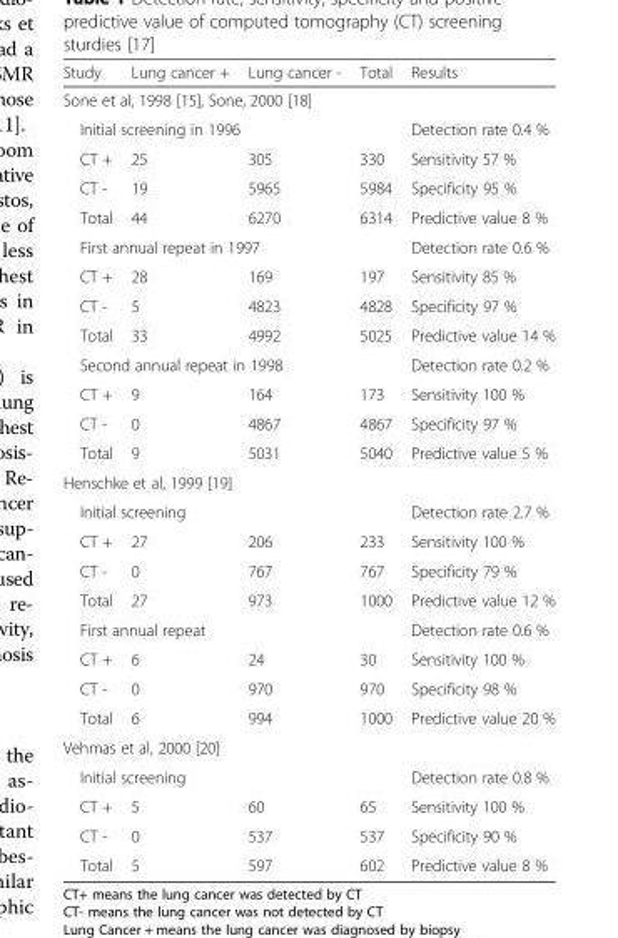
<table><thead><tr><td>Study</td><td>Lung cancer +</td><td>Lung cancer -</td><td>Total</td><td>Results</td></tr></thead><tbody><tr><td colspan="5">Sone et al, 1998 [15], Sone, 2000 [18]</td></tr><tr><td colspan="4">Initial screening in 1996</td><td>Detection rate 0.4 %</td></tr><tr><td>CT +</td><td>25</td><td>305</td><td>330</td><td>Sensitivity 57 %</td></tr><tr><td>CT -</td><td>19</td><td>5965</td><td>5984</td><td>Specificity 95 %</td></tr><tr><td>Total</td><td>44</td><td>6270</td><td>6314</td><td>Predictive value 8 %</td></tr><tr><td colspan="4">First annual repeat in 1997</td><td>Detection rate 0.6 %</td></tr><tr><td>CT +</td><td>28</td><td>169</td><td>197</td><td>Sensitivity 85 %</td></tr><tr><td>CT -</td><td>5</td><td>4823</td><td>4828</td><td>Specificity 97 %</td></tr><tr><td>Total</td><td>33</td><td>4992</td><td>5025</td><td>Predictive value 14 %</td></tr><tr><td colspan="4">Second annual repeat in 1998</td><td>Detection rate 0.2 %</td></tr><tr><td>CT +</td><td>9</td><td>164</td><td>173</td><td>Sensitivity 100 %</td></tr><tr><td>CT -</td><td>0</td><td>4867</td><td>4867</td><td>Specificity 97 %</td></tr><tr><td>Total</td><td>9</td><td>5031</td><td>5040</td><td>Predictive value 5 %</td></tr><tr><td colspan="5">Henschke et al, 1999 [19]</td></tr><tr><td colspan="4">Initial screening</td><td>Detection rate 2.7 %</td></tr><tr><td>CT +</td><td>27</td><td>206</td><td>233</td><td>Sensitivity 100 %</td></tr><tr><td>CT -</td><td>0</td><td>767</td><td>767</td><td>Specificity 79 %</td></tr><tr><td>Total</td><td>27</td><td>973</td><td>1000</td><td>Predictive value 12 %</td></tr><tr><td colspan="4">First annual repeat</td><td>Detection rate 0.6 %</td></tr><tr><td>CT +</td><td>6</td><td>24</td><td>30</td><td>Sensitivity 100 %</td></tr><tr><td>CT -</td><td>0</td><td>970</td><td>970</td><td>Specificity 98 %</td></tr><tr><td>Total</td><td>6</td><td>994</td><td>1000</td><td>Predictive value 20 %</td></tr><tr><td colspan="5">Vehmas et al, 2000 [20]</td></tr><tr><td colspan="4">Initial screening</td><td>Detection rate 0.8 %</td></tr><tr><td>CT +</td><td>5</td><td>60</td><td>65</td><td>Sensitivity 100 %</td></tr><tr><td>CT -</td><td>0</td><td>537</td><td>537</td><td>Specificity 90 %</td></tr><tr><td>Total</td><td>5</td><td>597</td><td>602</td><td>Predictive value 8 %</td></tr></tbody></table>